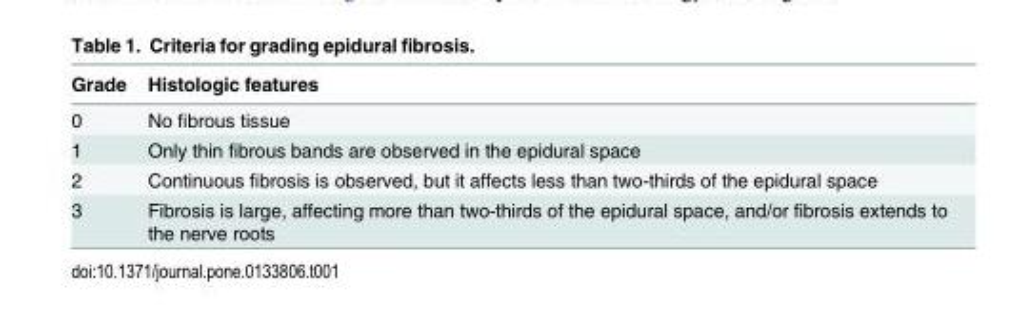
<table><thead><tr><td>Grade</td><td>Histologic features</td></tr></thead><tbody><tr><td>0</td><td>No fibrous tissue</td></tr><tr><td>1</td><td>Only thin fibrous bands are observed in the epidural space</td></tr><tr><td>2</td><td>Continuous fibrosis is observed, but it affects less than two-thirds of the epidural space</td></tr><tr><td>3</td><td>Fibrosis is large, affecting more than two-thirds of the epidural space, and/or fibrosis extends to the nerve roots</td></tr></tbody></table>